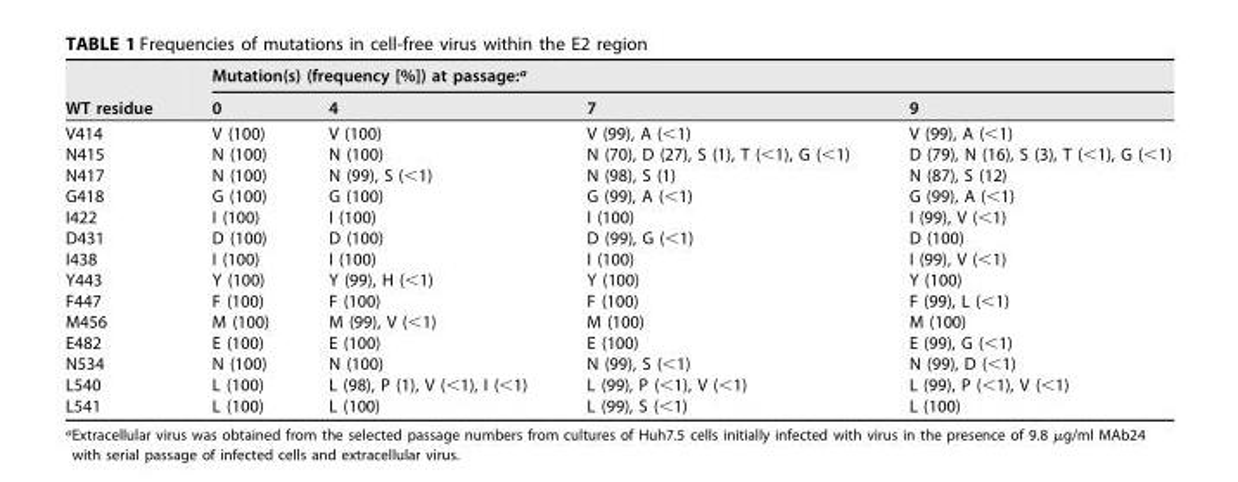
<table><thead><tr><td rowspan="2">WT residue</td><td colspan="4">Mutation(s) (frequency [%]) at passage:<sup>a</sup></td></tr><tr><td>0</td><td>4</td><td>7</td><td>9</td></tr></thead><tbody><tr><td>V414</td><td>V (100)</td><td>V (100)</td><td>V (99), A (&lt;1)</td><td>V (99), A (&lt;1)</td></tr><tr><td>N415</td><td>N (100)</td><td>N (100)</td><td>N (70), D (27), S (1), T (&lt;1), G (&lt;1)</td><td>D (79), N (16), S (3), T (&lt;1), G (&lt;1)</td></tr><tr><td>N417</td><td>N (100)</td><td>N (99), S (&lt;1)</td><td>N (98), S (1)</td><td>N (87), S (12)</td></tr><tr><td>G418</td><td>G (100)</td><td>G (100)</td><td>G (99), A (&lt;1)</td><td>G (99), A (&lt;1)</td></tr><tr><td>I422</td><td>I (100)</td><td>I (100)</td><td>I (100)</td><td>I (99), V (&lt;1)</td></tr><tr><td>D431</td><td>D (100)</td><td>D (100)</td><td>D (99), G (&lt;1)</td><td>D (100)</td></tr><tr><td>I438</td><td>I (100)</td><td>I (100)</td><td>I (100)</td><td>I (99), V (&lt;1)</td></tr><tr><td>Y443</td><td>Y (100)</td><td>Y (99), H (&lt;1)</td><td>Y (100)</td><td>Y (100)</td></tr><tr><td>F447</td><td>F (100)</td><td>F (100)</td><td>F (100)</td><td>F (99), L (&lt;1)</td></tr><tr><td>M456</td><td>M (100)</td><td>M (99), V (&lt;1)</td><td>M (100)</td><td>M (100)</td></tr><tr><td>E482</td><td>E (100)</td><td>E (100)</td><td>E (100)</td><td>E (99), G (&lt;1)</td></tr><tr><td>N534</td><td>N (100)</td><td>N (100)</td><td>N (99), S (&lt;1)</td><td>N (99), D (&lt;1)</td></tr><tr><td>L540</td><td>L (100)</td><td>L (98), P (1), V (&lt;1), I (&lt;1)</td><td>L (99), P (&lt;1), V (&lt;1)</td><td>L (99), P (&lt;1), V (&lt;1)</td></tr><tr><td>L541</td><td>L (100)</td><td>L (100)</td><td>L (99), S (&lt;1)</td><td>L (100)</td></tr></tbody></table>